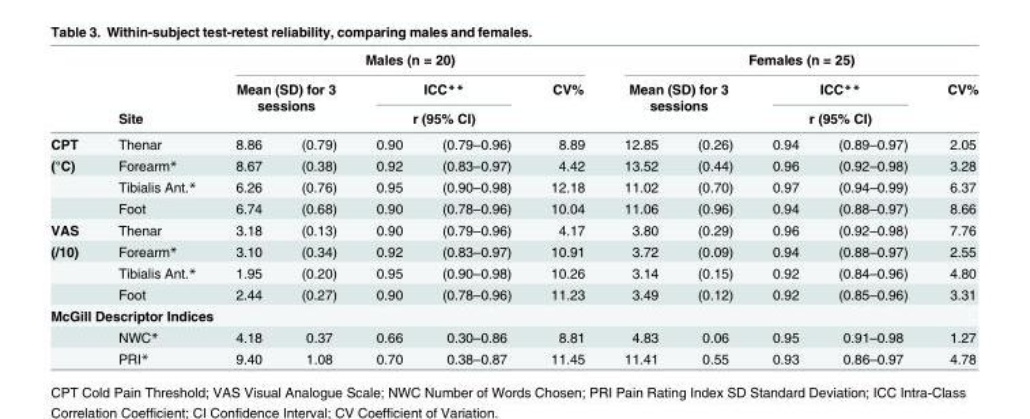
<table><thead><tr><td rowspan="4">CPT</td><td rowspan="4">Site Thenar</td><td colspan="5">Males (n = 20)</td><td colspan="5">Females (n = 25)</td></tr><tr><td rowspan="2" colspan="2">Mean (SD) for 3 sessions</td><td rowspan="2" colspan="2">ICC** r (95% CI)</td><td rowspan="3">CV% 8.89</td><td rowspan="2" colspan="2">Mean (SD) for 3 sessions</td><td rowspan="2" colspan="2">ICC** r (95% CI)</td><td rowspan="3">CV% 2.05</td></tr><tr></tr><tr><td>8.86</td><td>(0.79)</td><td>0.90</td><td>(0.79–0.96)</td><td>12.85</td><td>(0.26)</td><td>0.94</td><td>(0.89–0.97)</td></tr></thead><tbody><tr><td rowspan="3">(°C)</td><td>Forearm*</td><td>8.67</td><td>(0.38)</td><td>0.92</td><td>(0.83–0.97)</td><td>4.42</td><td>13.52</td><td>(0.44)</td><td>0.96</td><td>(0.92–0.98)</td><td>3.28</td></tr><tr><td>Tibialis Ant.*</td><td>6.26</td><td>(0.76)</td><td>0.95</td><td>(0.90–0.98)</td><td>12.18</td><td>11.02</td><td>(0.70)</td><td>0.97</td><td>(0.94–0.99)</td><td>6.37</td></tr><tr><td>Foot</td><td>6.74</td><td>(0.68)</td><td>0.90</td><td>(0.78–0.96)</td><td>10.04</td><td>11.06</td><td>(0.96)</td><td>0.94</td><td>(0.88–0.97)</td><td>8.66</td></tr><tr><td>VAS</td><td>Thenar</td><td>3.18</td><td>(0.13)</td><td>0.90</td><td>(0.79–0.96)</td><td>4.17</td><td>3.80</td><td>(0.29)</td><td>0.96</td><td>(0.92–0.98)</td><td>7.76</td></tr><tr><td rowspan="3">(/10)</td><td>Forearm*</td><td>3.10</td><td>(0.34)</td><td>0.92</td><td>(0.83–0.97)</td><td>10.91</td><td>3.72</td><td>(0.09)</td><td>0.94</td><td>(0.88–0.97)</td><td>2.55</td></tr><tr><td>Tibialis Ant.*</td><td>1.95</td><td>(0.20)</td><td>0.95</td><td>(0.90–0.98)</td><td>10.26</td><td>3.14</td><td>(0.15)</td><td>0.92</td><td>(0.84–0.96)</td><td>4.80</td></tr><tr><td>Foot</td><td>2.44</td><td>(0.27)</td><td>0.90</td><td>(0.78–0.96)</td><td>11.23</td><td>3.49</td><td>(0.12)</td><td>0.92</td><td>(0.85–0.96)</td><td>3.31</td></tr><tr><td colspan="12">McGill Descriptor Indices</td></tr><tr><td></td><td>NWC*</td><td>4.18</td><td>0.37</td><td>0.66</td><td>0.30–0.86</td><td>8.81</td><td>4.83</td><td>0.06</td><td>0.95</td><td>0.91–0.98</td><td>1.27</td></tr><tr><td></td><td>PRI*</td><td>9.40</td><td>1.08</td><td>0.70</td><td>0.38–0.87</td><td>11.45</td><td>11.41</td><td>0.55</td><td>0.93</td><td>0.86–0.97</td><td>4.78</td></tr></tbody></table>